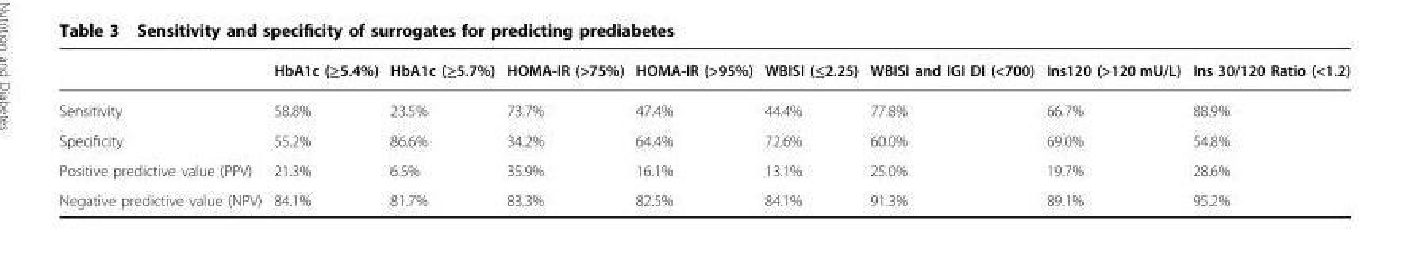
<table><thead><tr><td></td><td>HbA1c (≥5.4%)</td><td>HbA1c (≥5.7%)</td><td>HOMA-IR (&gt;75%)</td><td>HOMA-IR (&gt;95%)</td><td>WBISI (≤2.25)</td><td>WBISI and IGI DI (&lt;700)</td><td>Ins120 (&gt;120 mU/L)</td><td>Ins 30/120 Ratio (&lt;1.2)</td></tr></thead><tbody><tr><td>Sensitivity</td><td>58.8%</td><td>23.5%</td><td>73.7%</td><td>47.4%</td><td>44.4%</td><td>77.8%</td><td>66.7%</td><td>88.9%</td></tr><tr><td>Specificity</td><td>55.2%</td><td>86.6%</td><td>34.2%</td><td>64.4%</td><td>72.6%</td><td>60.0%</td><td>69.0%</td><td>54.8%</td></tr><tr><td>Positive predictive value (PPV)</td><td>21.3%</td><td>6.5%</td><td>35.9%</td><td>16.1%</td><td>13.1%</td><td>25.0%</td><td>19.7%</td><td>28.6%</td></tr><tr><td>Negative predictive value (NPV)</td><td>84.1%</td><td>81.7%</td><td>83.3%</td><td>82.5%</td><td>84.1%</td><td>91.3%</td><td>89.1%</td><td>95.2%</td></tr></tbody></table>